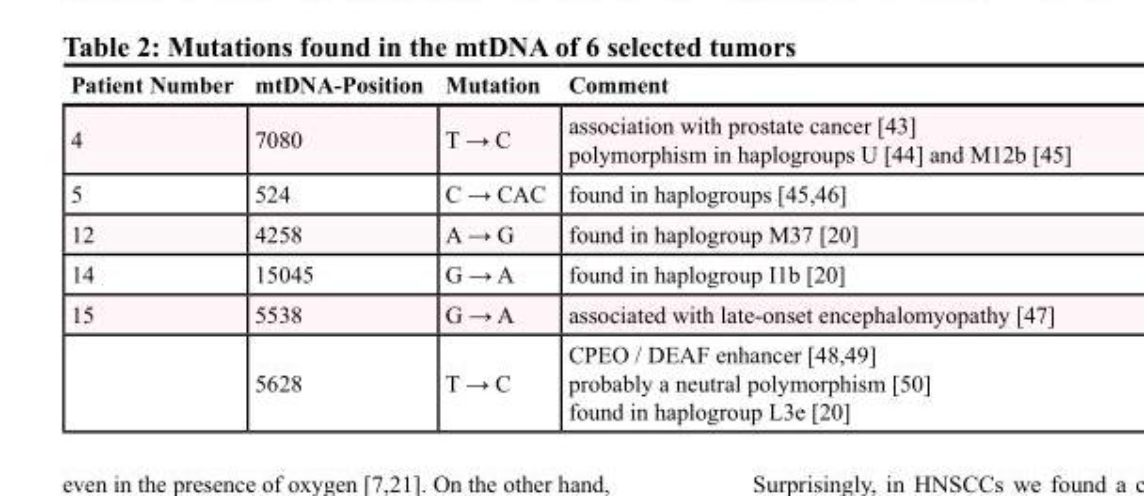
<table><thead><tr><td>Patient Number</td><td>mtDNA-Position</td><td>Mutation</td><td>Comment</td></tr></thead><tbody><tr><td>4</td><td>7080</td><td>T → C</td><td>association with prostate cancer [43] polymorphism in haplogroups U [44] and M12b [45]</td></tr><tr><td>5</td><td>524</td><td>C → CAC</td><td>found in haplogroups [45,46]</td></tr><tr><td>12</td><td>4258</td><td>A → G</td><td>found in haplogroup M37 [20]</td></tr><tr><td>14</td><td>15045</td><td>G → A</td><td>found in haplogroup I1b [20]</td></tr><tr><td rowspan="2">15</td><td>5538</td><td>G → A</td><td>associated with late-onset encephalomyopathy [47]</td></tr><tr><td>5628</td><td>T → C</td><td>CPEO / DEAF enhancer [48,49] probably a neutral polymorphism [50] found in haplogroup L3e [20]</td></tr></tbody></table>